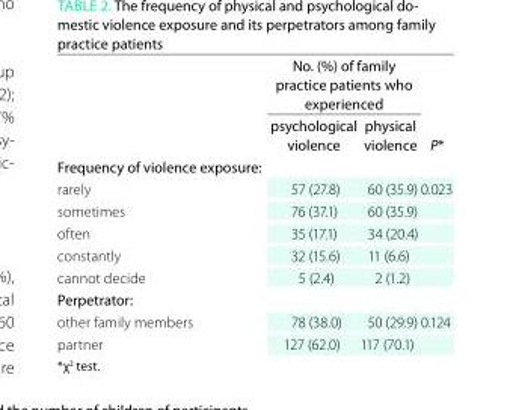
<table><thead><tr><td rowspan="2"></td><td colspan="2">No. (%) of family practice patients who experienced</td><td rowspan="2">P*</td></tr><tr><td>psychological violence</td><td>physical violence</td></tr></thead><tbody><tr><td colspan="4">Frequency of violence exposure:</td></tr><tr><td>rarely</td><td>57 (27.8)</td><td>60 (35.9)</td><td>0.023</td></tr><tr><td>sometimes</td><td>76 (37.1)</td><td>60 (35.9)</td><td></td></tr><tr><td>often</td><td>35 (17.1)</td><td>34 (20.4)</td><td></td></tr><tr><td>constantly</td><td>32 (15.6)</td><td>11 (6.6)</td><td></td></tr><tr><td>cannot decide</td><td>5 (2.4)</td><td>2 (1.2)</td><td></td></tr><tr><td>Perpetrator:</td><td></td><td></td><td></td></tr><tr><td>other family members</td><td>78 (38.0)</td><td>50 (29.9)</td><td>0.124</td></tr><tr><td>partner</td><td>127 (62.0)</td><td>117 (70.1)</td><td></td></tr></tbody></table>